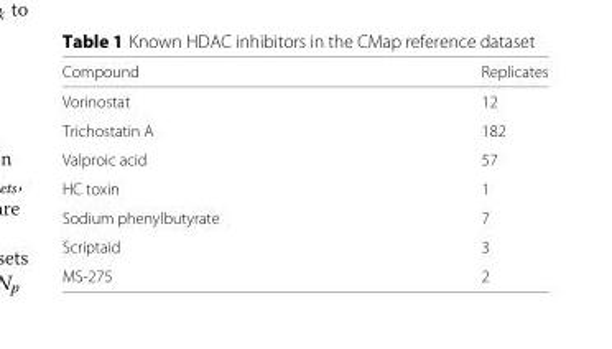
<table><thead><tr><td>Compound</td><td>Replicates</td></tr></thead><tbody><tr><td>Vorinostat</td><td>12</td></tr><tr><td>Trichostatin A</td><td>182</td></tr><tr><td>Valproic acid</td><td>57</td></tr><tr><td>HC toxin</td><td>1</td></tr><tr><td>Sodium phenylbutyrate</td><td>7</td></tr><tr><td>Scriptaid</td><td>3</td></tr><tr><td>MS-275</td><td>2</td></tr></tbody></table>